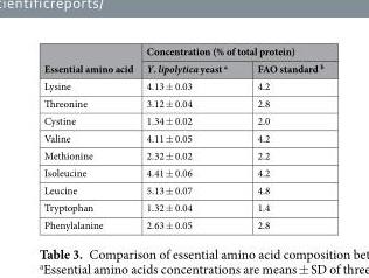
<table><thead><tr><td rowspan="2">Essential amino acid</td><td colspan="2">Concentration (% of total protein)</td></tr><tr><td>Y. lipolytica yeast <sup>a</sup></td><td>FAO standard <sup>b</sup></td></tr></thead><tbody><tr><td>Lysine</td><td>4.13 ± 0.03</td><td>4.2</td></tr><tr><td>Threonine</td><td>3.12 ± 0.04</td><td>2.8</td></tr><tr><td>Cystine</td><td>1.34 ± 0.02</td><td>2.0</td></tr><tr><td>Valine</td><td>4.11 ± 0.05</td><td>4.2</td></tr><tr><td>Methionine</td><td>2.32 ± 0.02</td><td>2.2</td></tr><tr><td>Isoleucine</td><td>4.41 ± 0.06</td><td>4.2</td></tr><tr><td>Leucine</td><td>5.13 ± 0.07</td><td>4.8</td></tr><tr><td>Tryptophan</td><td>1.32 ± 0.04</td><td>1.4</td></tr><tr><td>Phenylalanine</td><td>2.63 ± 0.05</td><td>2.8</td></tr></tbody></table>